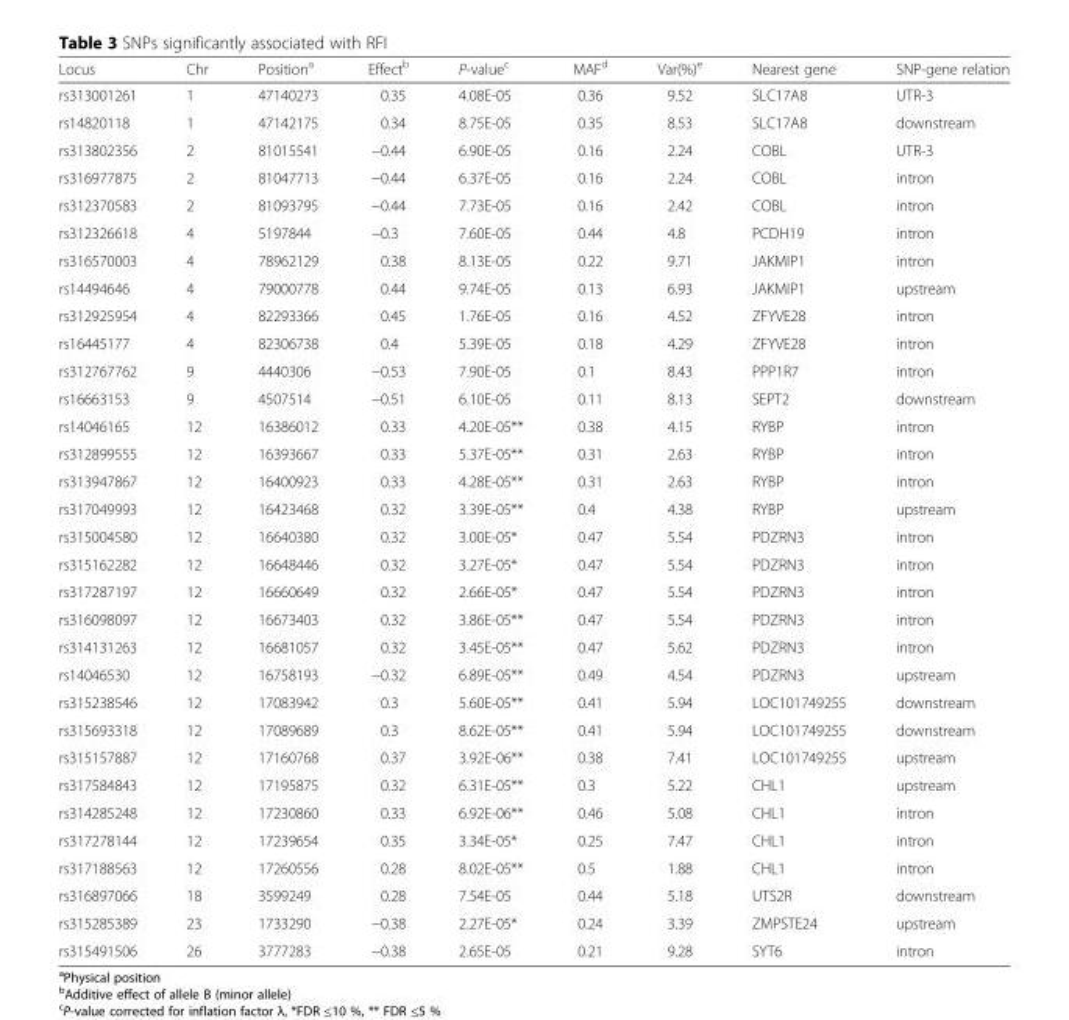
<table><thead><tr><td>Locus</td><td>Chr</td><td>Position<sup>a</sup></td><td>Effect<sup>b</sup></td><td>P-value<sup>c</sup></td><td>MAF<sup>d</sup></td><td>Var(%)<sup>e</sup></td><td>Nearest gene</td><td>SNP-gene relation</td></tr></thead><tbody><tr><td>rs313001261</td><td>1</td><td>47140273</td><td>0.35</td><td>4.08E-05</td><td>0.36</td><td>9.52</td><td>SLC17A8</td><td>UTR-3</td></tr><tr><td>rs14820118</td><td>1</td><td>47142175</td><td>0.34</td><td>8.75E-05</td><td>0.35</td><td>8.53</td><td>SLC17A8</td><td>downstream</td></tr><tr><td>rs313802356</td><td>2</td><td>81015541</td><td>−0.44</td><td>6.90E-05</td><td>0.16</td><td>2.24</td><td>COBL</td><td>UTR-3</td></tr><tr><td>rs316977875</td><td>2</td><td>81047713</td><td>−0.44</td><td>6.37E-05</td><td>0.16</td><td>2.24</td><td>COBL</td><td>intron</td></tr><tr><td>rs312370583</td><td>2</td><td>81093795</td><td>−0.44</td><td>7.73E-05</td><td>0.16</td><td>2.42</td><td>COBL</td><td>intron</td></tr><tr><td>rs312326618</td><td>4</td><td>5197844</td><td>−0.3</td><td>7.60E-05</td><td>0.44</td><td>4.8</td><td>PCDH19</td><td>intron</td></tr><tr><td>rs316570003</td><td>4</td><td>78962129</td><td>0.38</td><td>8.13E-05</td><td>0.22</td><td>9.71</td><td>JAKMIP1</td><td>intron</td></tr><tr><td>rs14494646</td><td>4</td><td>79000778</td><td>0.44</td><td>9.74E-05</td><td>0.13</td><td>6.93</td><td>JAKMIP1</td><td>upstream</td></tr><tr><td>rs312925954</td><td>4</td><td>82293366</td><td>0.45</td><td>1.76E-05</td><td>0.16</td><td>4.52</td><td>ZFYVE28</td><td>intron</td></tr><tr><td>rs16445177</td><td>4</td><td>82306738</td><td>0.4</td><td>5.39E-05</td><td>0.18</td><td>4.29</td><td>ZFYVE28</td><td>intron</td></tr><tr><td>rs312767762</td><td>9</td><td>4440306</td><td>−0.53</td><td>7.90E-05</td><td>0.1</td><td>8.43</td><td>PPP1R7</td><td>intron</td></tr><tr><td>rs16663153</td><td>9</td><td>4507514</td><td>−0.51</td><td>6.10E-05</td><td>0.11</td><td>8.13</td><td>SEPT2</td><td>downstream</td></tr><tr><td>rs14046165</td><td>12</td><td>16386012</td><td>0.33</td><td>4.20E-05**</td><td>0.38</td><td>4.15</td><td>RYBP</td><td>intron</td></tr><tr><td>rs312899555</td><td>12</td><td>16393667</td><td>0.33</td><td>5.37E-05**</td><td>0.31</td><td>2.63</td><td>RYBP</td><td>intron</td></tr><tr><td>rs313947867</td><td>12</td><td>16400923</td><td>0.33</td><td>4.28E-05**</td><td>0.31</td><td>2.63</td><td>RYBP</td><td>intron</td></tr><tr><td>rs317049993</td><td>12</td><td>16423468</td><td>0.32</td><td>3.39E-05**</td><td>0.4</td><td>4.38</td><td>RYBP</td><td>upstream</td></tr><tr><td>rs315004580</td><td>12</td><td>16640380</td><td>0.32</td><td>3.00E-05*</td><td>0.47</td><td>5.54</td><td>PDZRN3</td><td>intron</td></tr><tr><td>rs315162282</td><td>12</td><td>16648446</td><td>0.32</td><td>3.27E-05*</td><td>0.47</td><td>5.54</td><td>PDZRN3</td><td>intron</td></tr><tr><td>rs317287197</td><td>12</td><td>16660649</td><td>0.32</td><td>2.66E-05*</td><td>0.47</td><td>5.54</td><td>PDZRN3</td><td>intron</td></tr><tr><td>rs316098097</td><td>12</td><td>16673403</td><td>0.32</td><td>3.86E-05**</td><td>0.47</td><td>5.54</td><td>PDZRN3</td><td>intron</td></tr><tr><td>rs314131263</td><td>12</td><td>16681057</td><td>0.32</td><td>3.45E-05**</td><td>0.47</td><td>5.62</td><td>PDZRN3</td><td>intron</td></tr><tr><td>rs14046530</td><td>12</td><td>16758193</td><td>−0.32</td><td>6.89E-05**</td><td>0.49</td><td>4.54</td><td>PDZRN3</td><td>upstream</td></tr><tr><td>rs315238546</td><td>12</td><td>17083942</td><td>0.3</td><td>5.60E-05**</td><td>0.41</td><td>5.94</td><td>LOC101749255</td><td>downstream</td></tr><tr><td>rs315693318</td><td>12</td><td>17089689</td><td>0.3</td><td>8.62E-05**</td><td>0.41</td><td>5.94</td><td>LOC101749255</td><td>downstream</td></tr><tr><td>rs315157887</td><td>12</td><td>17160768</td><td>0.37</td><td>3.92E-06**</td><td>0.38</td><td>7.41</td><td>LOC101749255</td><td>upstream</td></tr><tr><td>rs317584843</td><td>12</td><td>17195875</td><td>0.32</td><td>6.31E-05**</td><td>0.3</td><td>5.22</td><td>CHL1</td><td>upstream</td></tr><tr><td>rs314285248</td><td>12</td><td>17230860</td><td>0.33</td><td>6.92E-06**</td><td>0.46</td><td>5.08</td><td>CHL1</td><td>intron</td></tr><tr><td>rs317278144</td><td>12</td><td>17239654</td><td>0.35</td><td>3.34E-05*</td><td>0.25</td><td>7.47</td><td>CHL1</td><td>intron</td></tr><tr><td>rs317188563</td><td>12</td><td>17260556</td><td>0.28</td><td>8.02E-05**</td><td>0.5</td><td>1.88</td><td>CHL1</td><td>intron</td></tr><tr><td>rs316897066</td><td>18</td><td>3599249</td><td>0.28</td><td>7.54E-05</td><td>0.44</td><td>5.18</td><td>UTS2R</td><td>downstream</td></tr><tr><td>rs315285389</td><td>23</td><td>1733290</td><td>−0.38</td><td>2.27E-05*</td><td>0.24</td><td>3.39</td><td>ZMPSTE24</td><td>upstream</td></tr><tr><td>rs315491506</td><td>26</td><td>3777283</td><td>−0.38</td><td>2.65E-05</td><td>0.21</td><td>9.28</td><td>SYT6</td><td>intron</td></tr></tbody></table>